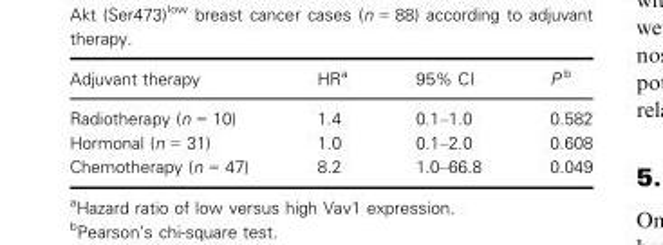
<table><thead><tr><td>Adjuvant therapy</td><td>HR<sup>a</sup></td><td>95% CI</td><td>P b</td></tr></thead><tbody><tr><td>Radiotherapy (n = 10)</td><td>1.4</td><td>0.1–1.0</td><td>0.582</td></tr><tr><td>Hormonal (n = 31)</td><td>1.0</td><td>0.1–2.0</td><td>0.608</td></tr><tr><td>Chemotherapy (n = 47)</td><td>8.2</td><td>1.0–66.8</td><td>0.049</td></tr></tbody></table>